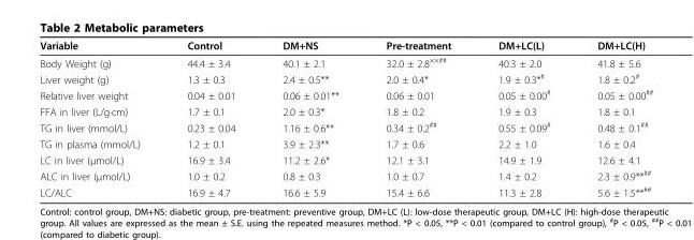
<table><thead><tr><td>Variable</td><td>Control</td><td>DM+NS</td><td>Pre-treatment</td><td>DM+LC(L)</td><td>DM+LC(H)</td></tr></thead><tbody><tr><td>Body Weight (g)</td><td>44.4 ± 3.4</td><td>40.1 ± 2.1</td><td>32.0 ± 2.8<sup>××##</sup></td><td>40.3 ± 2.0</td><td>41.8 ± 5.6</td></tr><tr><td>Liver weight (g)</td><td>1.3 ± 0.3</td><td>2.4 ± 0.5**</td><td>2.0 ± 0.4*</td><td>1.9 ± 0.3*<sup>#</sup></td><td>1.8 ± 0.2<sup>#</sup></td></tr><tr><td>Relative liver weight</td><td>0.04 ± 0.01</td><td>0.06 ± 0.01**</td><td>0.06 ± 0.01</td><td>0.05 ± 0.00<sup>#</sup></td><td>0.05 ± 0.00<sup>##</sup></td></tr><tr><td>FFA in liver (L/g·cm)</td><td>1.7 ± 0.1</td><td>2.0 ± 0.3*</td><td>1.8 ± 0.2</td><td>1.9 ± 0.3</td><td>1.8 ± 0.1</td></tr><tr><td>TG in liver (mmol/L)</td><td>0.23 ± 0.04</td><td>1.16 ± 0.6**</td><td>0.34 ± 0.2<sup>##</sup></td><td>0.55 ± 0.09<sup>#</sup></td><td>0.48 ± 0.1<sup>##</sup></td></tr><tr><td>TG in plasma (mmol/L)</td><td>1.2 ± 0.1</td><td>3.9 ± 2.3**</td><td>1.7 ± 0.6</td><td>2.2 ± 1.0</td><td>1.6 ± 0.4</td></tr><tr><td>LC in liver (μmol/L)</td><td>16.9 ± 3.4</td><td>11.2 ± 2.6*</td><td>12.1 ± 3.1</td><td>14.9 ± 1.9</td><td>12.6 ± 4.1</td></tr><tr><td>ALC in liver (μmol/L)</td><td>1.0 ± 0.2</td><td>0.8 ± 0.3</td><td>1.0 ± 0.7</td><td>1.4 ± 0.2</td><td>2.3 ± 0.9**<sup>##</sup></td></tr><tr><td>LC/ALC</td><td>16.9 ± 4.7</td><td>16.6 ± 5.9</td><td>15.4 ± 6.6</td><td>11.3 ± 2.8</td><td>5.6 ± 1.5**<sup>##</sup></td></tr></tbody></table>